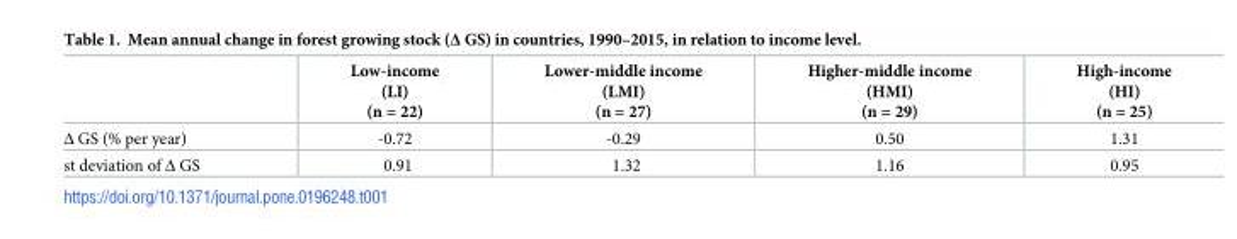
<table><thead><tr><td></td><td>Low-income (LI) (n = 22)</td><td>Lower-middle income (LMI) (n = 27)</td><td>Higher-middle income (HMI) (n = 29)</td><td>High-income (HI) (n = 25)</td></tr></thead><tbody><tr><td>Δ GS (% per year)</td><td>-0.72</td><td>-0.29</td><td>0.50</td><td>1.31</td></tr><tr><td>st deviation of Δ GS</td><td>0.91</td><td>1.32</td><td>1.16</td><td>0.95</td></tr></tbody></table>